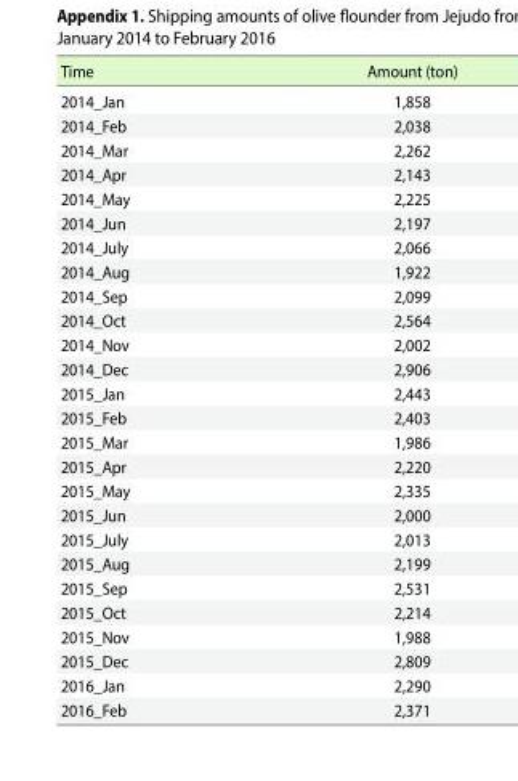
<table><thead><tr><td>Time</td><td>Amount (ton)</td></tr></thead><tbody><tr><td>2014_Jan</td><td>1,858</td></tr><tr><td>2014_Feb</td><td>2,038</td></tr><tr><td>2014_Mar</td><td>2,262</td></tr><tr><td>2014_Apr</td><td>2,143</td></tr><tr><td>2014_May</td><td>2,225</td></tr><tr><td>2014_Jun</td><td>2,197</td></tr><tr><td>2014_July</td><td>2,066</td></tr><tr><td>2014_Aug</td><td>1,922</td></tr><tr><td>2014_Sep</td><td>2,099</td></tr><tr><td>2014_Oct</td><td>2,564</td></tr><tr><td>2014_Nov</td><td>2,002</td></tr><tr><td>2014_Dec</td><td>2,906</td></tr><tr><td>2015_Jan</td><td>2,443</td></tr><tr><td>2015_Feb</td><td>2,403</td></tr><tr><td>2015_Mar</td><td>1,986</td></tr><tr><td>2015_Apr</td><td>2,220</td></tr><tr><td>2015_May</td><td>2,335</td></tr><tr><td>2015_Jun</td><td>2,000</td></tr><tr><td>2015_July</td><td>2,013</td></tr><tr><td>2015_Aug</td><td>2,199</td></tr><tr><td>2015_Sep</td><td>2,531</td></tr><tr><td>2015_Oct</td><td>2,214</td></tr><tr><td>2015_Nov</td><td>1,988</td></tr><tr><td>2015_Dec</td><td>2,809</td></tr><tr><td>2016_Jan</td><td>2,290</td></tr><tr><td>2016_Feb</td><td>2,371</td></tr></tbody></table>